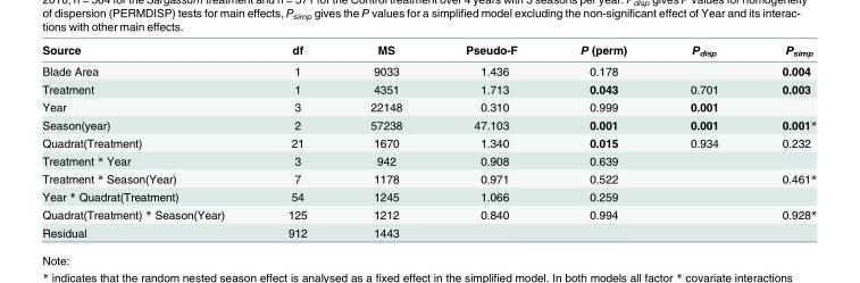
<table><thead><tr><td>Source</td><td>df</td><td>MS</td><td>Pseudo-F</td><td>P (perm)</td><td>P<sub>disp</sub></td><td>P<sub>simp</sub></td></tr></thead><tbody><tr><td>Blade Area</td><td>1</td><td>9033</td><td>1.436</td><td>0.178</td><td></td><td>0.004</td></tr><tr><td>Treatment</td><td>1</td><td>4351</td><td>1.713</td><td>0.043</td><td>0.701</td><td>0.003</td></tr><tr><td>Year</td><td>3</td><td>22148</td><td>0.310</td><td>0.999</td><td>0.001</td><td></td></tr><tr><td>Season(year)</td><td>2</td><td>57238</td><td>47.103</td><td>0.001</td><td>0.001</td><td>0.001*</td></tr><tr><td>Quadrat(Treatment)</td><td>21</td><td>1670</td><td>1.340</td><td>0.015</td><td>0.934</td><td>0.232</td></tr><tr><td>Treatment * Year</td><td>3</td><td>942</td><td>0.908</td><td>0.639</td><td></td><td></td></tr><tr><td>Treatment * Season(Year)</td><td>7</td><td>1178</td><td>0.971</td><td>0.522</td><td></td><td>0.461*</td></tr><tr><td>Year * Quadrat(Treatment)</td><td>54</td><td>1245</td><td>1.066</td><td>0.259</td><td></td><td></td></tr><tr><td>Quadrat(Treatment) * Season(Year)</td><td>125</td><td>1212</td><td>0.840</td><td>0.994</td><td></td><td>0.928*</td></tr><tr><td>Residual</td><td>912</td><td>1443</td><td></td><td></td><td></td><td></td></tr></tbody></table>